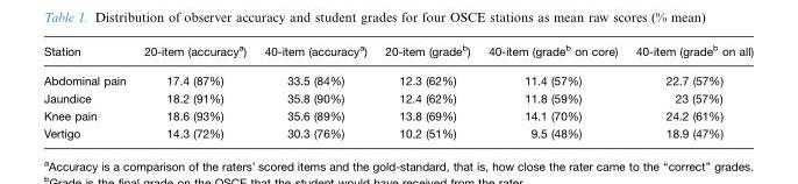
<table><thead><tr><td>Station</td><td>20-item (accuracy<sup>a</sup>)</td><td>40-item (accuracy<sup>a</sup>)</td><td>20-item (grade<sup>b</sup>)</td><td>40-item (grade<sup>b</sup> on core)</td><td>40-item (grade<sup>b</sup> on all)</td></tr></thead><tbody><tr><td>Abdominal pain</td><td>17.4 (87%)</td><td>33.5 (84%)</td><td>12.3 (62%)</td><td>11.4 (57%)</td><td>22.7 (57%)</td></tr><tr><td>Jaundice</td><td>18.2 (91%)</td><td>35.8 (90%)</td><td>12.4 (62%)</td><td>11.8 (59%)</td><td>23 (57%)</td></tr><tr><td>Knee pain</td><td>18.6 (93%)</td><td>35.6 (89%)</td><td>13.8 (69%)</td><td>14.1 (70%)</td><td>24.2 (61%)</td></tr><tr><td>Vertigo</td><td>14.3 (72%)</td><td>30.3 (76%)</td><td>10.2 (51%)</td><td>9.5 (48%)</td><td>18.9 (47%)</td></tr></tbody></table>